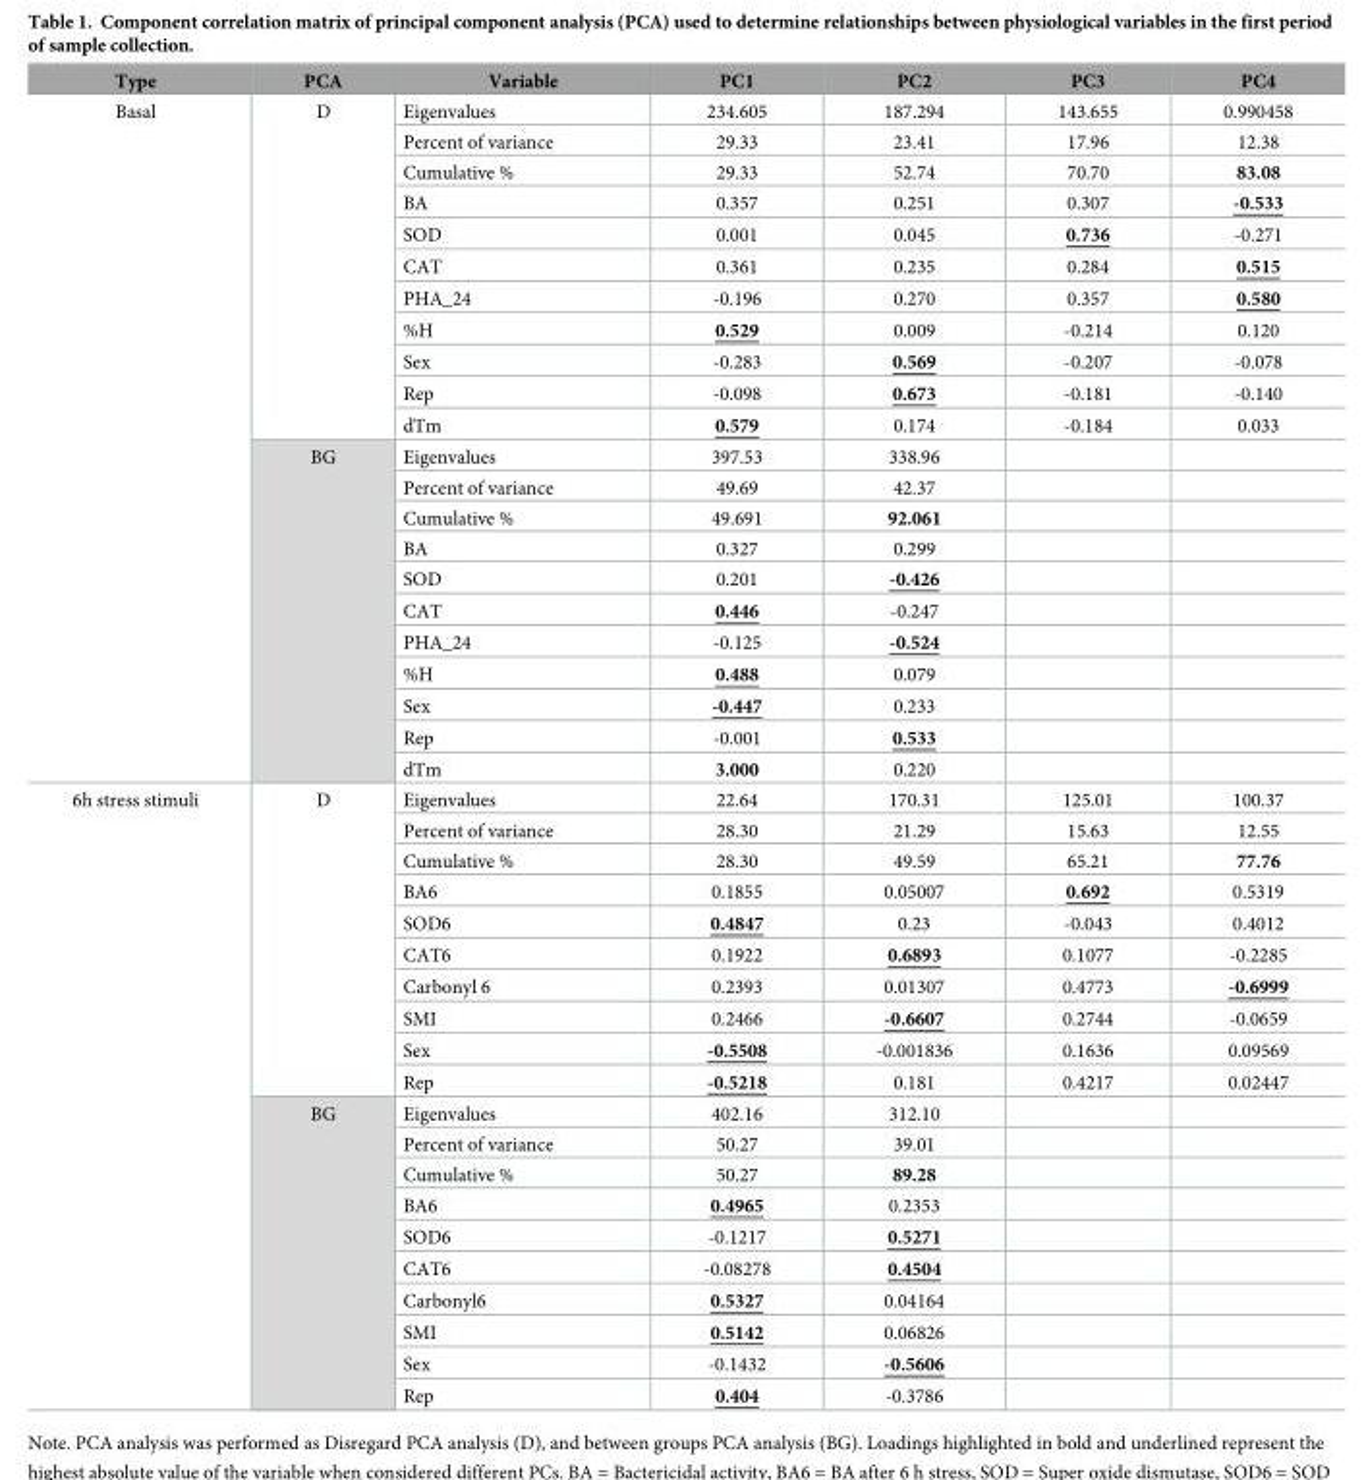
<table><thead><tr><td>Type</td><td>PCA</td><td>Variable</td><td>PC1</td><td>PC2</td><td>PC3</td><td>PC4</td></tr></thead><tbody><tr><td rowspan="22">Basal</td><td rowspan="11">D</td><td>Eigenvalues</td><td>234.605</td><td>187.294</td><td>143.655</td><td>0.990458</td></tr><tr><td>Percent of variance</td><td>29.33</td><td>23.41</td><td>17.96</td><td>12.38</td></tr><tr><td>Cumulative %</td><td>29.33</td><td>52.74</td><td>70.70</td><td>83.08</td></tr><tr><td>BA</td><td>0.357</td><td>0.251</td><td>0.307</td><td>-0.533</td></tr><tr><td>SOD</td><td>0.001</td><td>0.045</td><td>0.736</td><td>-0.271</td></tr><tr><td>CAT</td><td>0.361</td><td>0.235</td><td>0.284</td><td>0.515</td></tr><tr><td>PHA_24</td><td>-0.196</td><td>0.270</td><td>0.357</td><td>0.580</td></tr><tr><td>%H</td><td>0.529</td><td>0.009</td><td>-0.214</td><td>0.120</td></tr><tr><td>Sex</td><td>-0.283</td><td>0.569</td><td>-0.207</td><td>-0.078</td></tr><tr><td>Rep</td><td>-0.098</td><td>0.673</td><td>-0.181</td><td>-0.140</td></tr><tr><td>dTm</td><td>0.579</td><td>0.174</td><td>-0.184</td><td>0.033</td></tr><tr><td rowspan="11">BG</td><td>Eigenvalues</td><td>397.53</td><td>338.96</td><td></td><td></td></tr><tr><td>Percent of variance</td><td>49.69</td><td>42.37</td><td></td><td></td></tr><tr><td>Cumulative %</td><td>49.691</td><td>92.061</td><td></td><td></td></tr><tr><td>BA</td><td>0.327</td><td>0.299</td><td></td><td></td></tr><tr><td>SOD</td><td>0.201</td><td>-0.426</td><td></td><td></td></tr><tr><td>CAT</td><td>0.446</td><td>-0.247</td><td></td><td></td></tr><tr><td>PHA_24</td><td>-0.125</td><td>-0.524</td><td></td><td></td></tr><tr><td>%H</td><td>0.488</td><td>0.079</td><td></td><td></td></tr><tr><td>Sex</td><td>-0.447</td><td>0.233</td><td></td><td></td></tr><tr><td>Rep</td><td>-0.001</td><td>0.533</td><td></td><td></td></tr><tr><td>dTm</td><td>3.000</td><td>0.220</td><td></td><td></td></tr><tr><td rowspan="20">6h stress stimuli</td><td rowspan="10">D</td><td>Eigenvalues</td><td>22.64</td><td>170.31</td><td>125.01</td><td>100.37</td></tr><tr><td>Percent of variance</td><td>28.30</td><td>21.29</td><td>15.63</td><td>12.55</td></tr><tr><td>Cumulative %</td><td>28.30</td><td>49.59</td><td>65.21</td><td>77.76</td></tr><tr><td>BA6</td><td>0.1855</td><td>0.05007</td><td>0.692</td><td>0.5319</td></tr><tr><td>SOD6</td><td>0.4847</td><td>0.23</td><td>-0.043</td><td>0.4012</td></tr><tr><td>CAT6</td><td>0.1922</td><td>0.6893</td><td>0.1077</td><td>-0.2285</td></tr><tr><td>Carbonyl 6</td><td>0.2393</td><td>0.01307</td><td>0.4773</td><td>-0.6999</td></tr><tr><td>SMI</td><td>0.2466</td><td>-0.6607</td><td>0.2744</td><td>-0.0659</td></tr><tr><td>Sex</td><td>-0.5508</td><td>-0.001836</td><td>0.1636</td><td>0.09569</td></tr><tr><td>Rep</td><td>-0.5218</td><td>0.181</td><td>0.4217</td><td>0.02447</td></tr><tr><td rowspan="10">BG</td><td>Eigenvalues</td><td>402.16</td><td>312.10</td><td></td><td></td></tr><tr><td>Percent of variance</td><td>50.27</td><td>39.01</td><td></td><td></td></tr><tr><td>Cumulative %</td><td>50.27</td><td>89.28</td><td></td><td></td></tr><tr><td>BA6</td><td>0.4965</td><td>0.2353</td><td></td><td></td></tr><tr><td>SOD6</td><td>-0.1217</td><td>0.5271</td><td></td><td></td></tr><tr><td>CAT6</td><td>-0.08278</td><td>0.4504</td><td></td><td></td></tr><tr><td>Carbonyl6</td><td>0.5327</td><td>0.04164</td><td></td><td></td></tr><tr><td>SMI</td><td>0.5142</td><td>0.06826</td><td></td><td></td></tr><tr><td>Sex</td><td>-0.1432</td><td>-0.5606</td><td></td><td></td></tr><tr><td>Rep</td><td>0.404</td><td>-0.3786</td><td></td><td></td></tr></tbody></table>